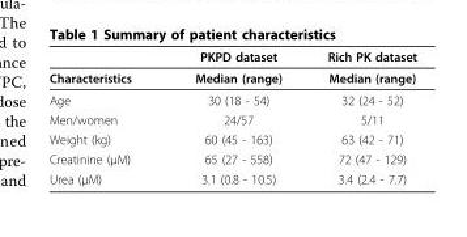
<table><thead><tr><td></td><td>PKPD dataset</td><td>Rich PK dataset</td></tr></thead><tbody><tr><td>Characteristics</td><td>Median (range)</td><td>Median (range)</td></tr><tr><td>Age</td><td>30 (18 - 54)</td><td>32 (24 - 52)</td></tr><tr><td>Men/women</td><td>24/57</td><td>5/11</td></tr><tr><td>Weight (kg)</td><td>60 (45 - 163)</td><td>63 (42 - 71)</td></tr><tr><td>Creatinine (μM)</td><td>65 (27 - 558)</td><td>72 (47 - 129)</td></tr><tr><td>Urea (μM)</td><td>3.1 (0.8 - 10.5)</td><td>3.4 (2.4 - 7.7)</td></tr></tbody></table>